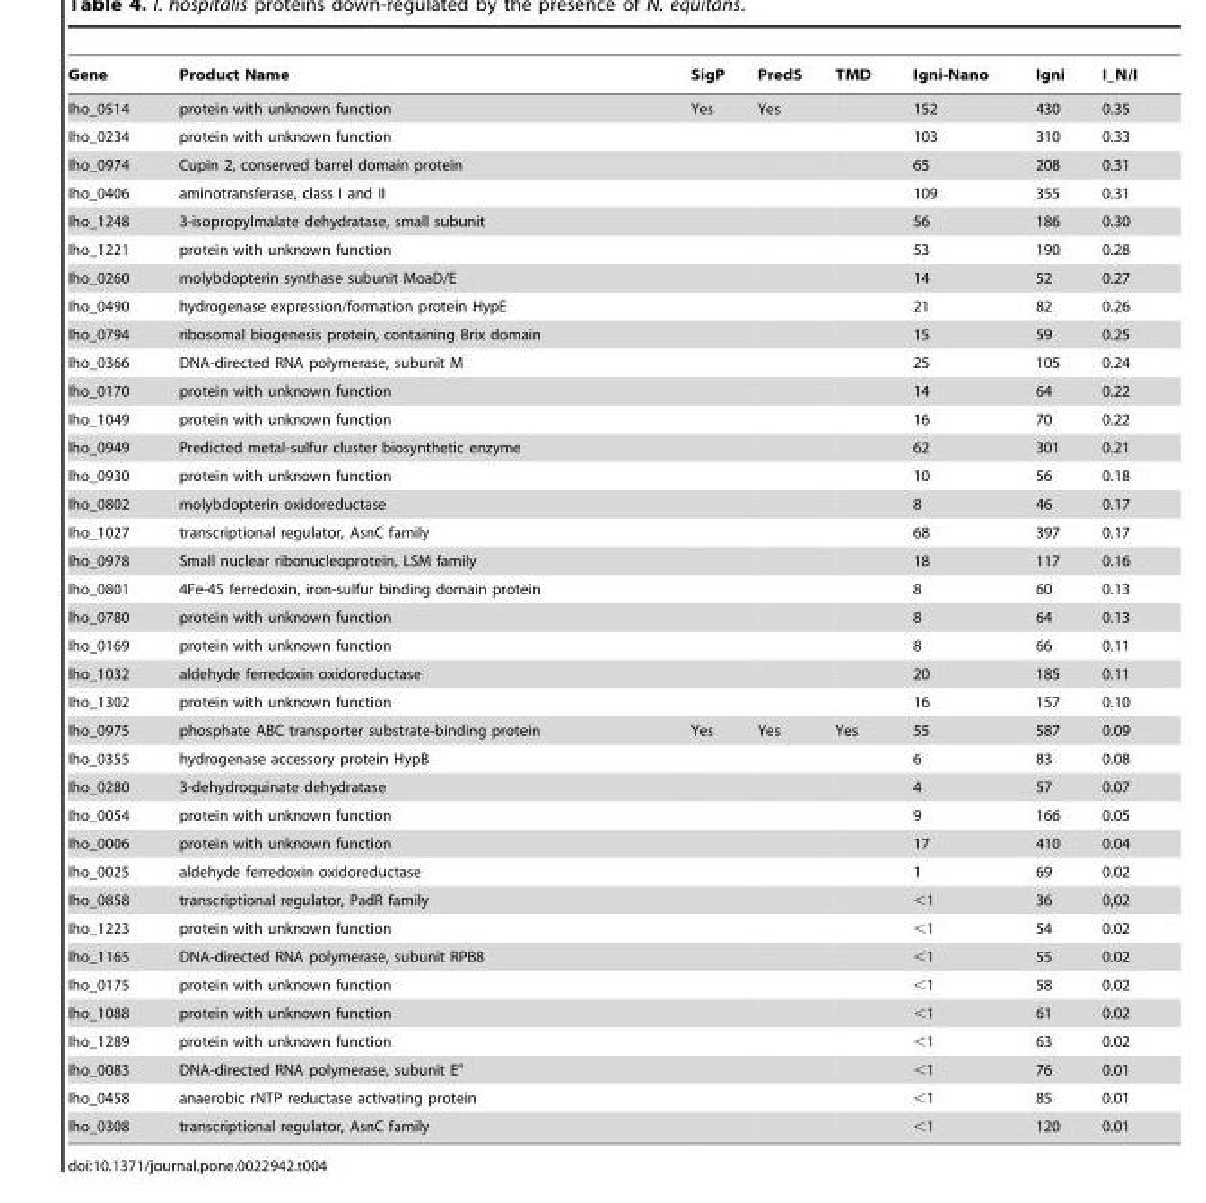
<table><thead><tr><td>Gene</td><td>Product Name</td><td>SigP</td><td>PredS</td><td>TMD</td><td>Igni-Nano</td><td>Igni</td><td>I_N/I</td></tr></thead><tbody><tr><td>Iho_0514</td><td>protein with unknown function</td><td>Yes</td><td>Yes</td><td></td><td>152</td><td>430</td><td>0.35</td></tr><tr><td>Iho_0234</td><td>protein with unknown function</td><td></td><td></td><td></td><td>103</td><td>310</td><td>0.33</td></tr><tr><td>Iho_0974</td><td>Cupin 2, conserved barrel domain protein</td><td></td><td></td><td></td><td>65</td><td>208</td><td>0.31</td></tr><tr><td>Iho_0406</td><td>aminotransferase, class I and II</td><td></td><td></td><td></td><td>109</td><td>355</td><td>0.31</td></tr><tr><td>Iho_1248</td><td>3-isopropylmalate dehydratase, small subunit</td><td></td><td></td><td></td><td>56</td><td>186</td><td>0.30</td></tr><tr><td>Iho_1221</td><td>protein with unknown function</td><td></td><td></td><td></td><td>53</td><td>190</td><td>0.28</td></tr><tr><td>Iho_0260</td><td>molybdopterin synthase subunit MoaD/E</td><td></td><td></td><td></td><td>14</td><td>52</td><td>0.27</td></tr><tr><td>Iho_0490</td><td>hydrogenase expression/formation protein HypE</td><td></td><td></td><td></td><td>21</td><td>82</td><td>0.26</td></tr><tr><td>Iho_0794</td><td>ribosomal biogenesis protein, containing Brix domain</td><td></td><td></td><td></td><td>15</td><td>59</td><td>0.25</td></tr><tr><td>Iho_0366</td><td>DNA-directed RNA polymerase, subunit M</td><td></td><td></td><td></td><td>25</td><td>105</td><td>0.24</td></tr><tr><td>Iho_0170</td><td>protein with unknown function</td><td></td><td></td><td></td><td>14</td><td>64</td><td>0.22</td></tr><tr><td>Iho_1049</td><td>protein with unknown function</td><td></td><td></td><td></td><td>16</td><td>70</td><td>0.22</td></tr><tr><td>Iho_0949</td><td>Predicted metal-sulfur cluster biosynthetic enzyme</td><td></td><td></td><td></td><td>62</td><td>301</td><td>0.21</td></tr><tr><td>Iho_0930</td><td>protein with unknown function</td><td></td><td></td><td></td><td>10</td><td>56</td><td>0.18</td></tr><tr><td>Iho_0802</td><td>molybdopterin oxidoreductase</td><td></td><td></td><td></td><td>8</td><td>46</td><td>0.17</td></tr><tr><td>Iho_1027</td><td>transcriptional regulator, AsnC family</td><td></td><td></td><td></td><td>68</td><td>397</td><td>0.17</td></tr><tr><td>Iho_0978</td><td>Small nuclear ribonucleoprotein, LSM family</td><td></td><td></td><td></td><td>18</td><td>117</td><td>0.16</td></tr><tr><td>Iho_0801</td><td>4Fe-4S ferredoxin, iron-sulfur binding domain protein</td><td></td><td></td><td></td><td>8</td><td>60</td><td>0.13</td></tr><tr><td>Iho_0780</td><td>protein with unknown function</td><td></td><td></td><td></td><td>8</td><td>64</td><td>0.13</td></tr><tr><td>Iho_0169</td><td>protein with unknown function</td><td></td><td></td><td></td><td>8</td><td>66</td><td>0.11</td></tr><tr><td>Iho_1032</td><td>aldehyde ferredoxin oxidoreductase</td><td></td><td></td><td></td><td>20</td><td>185</td><td>0.11</td></tr><tr><td>Iho_1302</td><td>protein with unknown function</td><td></td><td></td><td></td><td>16</td><td>157</td><td>0.10</td></tr><tr><td>Iho_0975</td><td>phosphate ABC transporter substrate-binding protein</td><td>Yes</td><td>Yes</td><td>Yes</td><td>55</td><td>587</td><td>0.09</td></tr><tr><td>Iho_0355</td><td>hydrogenase accessory protein HypB</td><td></td><td></td><td></td><td>6</td><td>83</td><td>0.08</td></tr><tr><td>Iho_0280</td><td>3-dehydroquinate dehydratase</td><td></td><td></td><td></td><td>4</td><td>57</td><td>0.07</td></tr><tr><td>Iho_0054</td><td>protein with unknown function</td><td></td><td></td><td></td><td>9</td><td>166</td><td>0.05</td></tr><tr><td>Iho_0006</td><td>protein with unknown function</td><td></td><td></td><td></td><td>17</td><td>410</td><td>0.04</td></tr><tr><td>Iho_0025</td><td>aldehyde ferredoxin oxidoreductase</td><td></td><td></td><td></td><td>1</td><td>69</td><td>0.02</td></tr><tr><td>Iho_0858</td><td>transcriptional regulator, PadR family</td><td></td><td></td><td></td><td>&lt;1</td><td>36</td><td>0,02</td></tr><tr><td>Iho_1223</td><td>protein with unknown function</td><td></td><td></td><td></td><td>&lt;1</td><td>54</td><td>0.02</td></tr><tr><td>Iho_1165</td><td>DNA-directed RNA polymerase, subunit RPB8</td><td></td><td></td><td></td><td>&lt;1</td><td>55</td><td>0.02</td></tr><tr><td>Iho_0175</td><td>protein with unknown function</td><td></td><td></td><td></td><td>&lt;1</td><td>58</td><td>0.02</td></tr><tr><td>Iho_1088</td><td>protein with unknown function</td><td></td><td></td><td></td><td>&lt;1</td><td>61</td><td>0.02</td></tr><tr><td>Iho_1289</td><td>protein with unknown function</td><td></td><td></td><td></td><td>&lt;1</td><td>63</td><td>0.02</td></tr><tr><td>Iho_0083</td><td>DNA-directed RNA polymerase, subunit E″</td><td></td><td></td><td></td><td>&lt;1</td><td>76</td><td>0.01</td></tr><tr><td>Iho_0458</td><td>anaerobic rNTP reductase activating protein</td><td></td><td></td><td></td><td>&lt;1</td><td>85</td><td>0.01</td></tr><tr><td>Iho_0308</td><td>transcriptional regulator, AsnC family</td><td></td><td></td><td></td><td>&lt;1</td><td>120</td><td>0.01</td></tr></tbody></table>